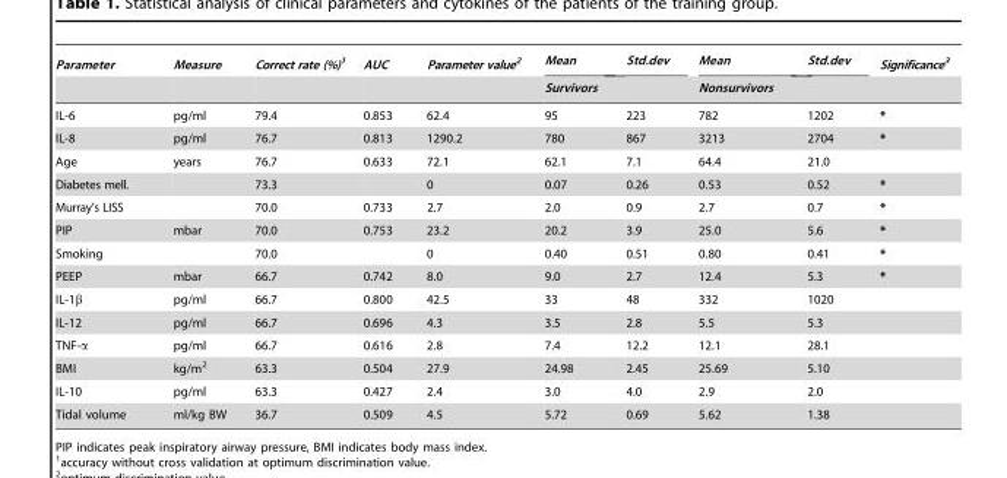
<table><thead><tr><td rowspan="2">Parameter</td><td rowspan="2">Measure</td><td rowspan="2">Correct rate (%)1</td><td rowspan="2">AUC</td><td rowspan="2">Parameter value2</td><td>Mean</td><td>Std.dev</td><td>Mean</td><td>Std.dev</td><td rowspan="2">Significance3</td></tr><tr><td colspan="2">Survivors</td><td colspan="2">Nonsurvivors</td></tr></thead><tbody><tr><td>IL-6</td><td>pg/ml</td><td>79.4</td><td>0.853</td><td>62.4</td><td>95</td><td>223</td><td>782</td><td>1202</td><td>*</td></tr><tr><td>IL-8</td><td>pg/ml</td><td>76.7</td><td>0.813</td><td>1290.2</td><td>780</td><td>867</td><td>3213</td><td>2704</td><td>*</td></tr><tr><td>Age</td><td>years</td><td>76.7</td><td>0.633</td><td>72.1</td><td>62.1</td><td>7.1</td><td>64.4</td><td>21.0</td><td></td></tr><tr><td>Diabetes mell.</td><td></td><td>73.3</td><td></td><td>0</td><td>0.07</td><td>0.26</td><td>0.53</td><td>0.52</td><td>*</td></tr><tr><td>Murray’s LISS</td><td></td><td>70.0</td><td>0.733</td><td>2.7</td><td>2.0</td><td>0.9</td><td>2.7</td><td>0.7</td><td>*</td></tr><tr><td>PIP</td><td>mbar</td><td>70.0</td><td>0.753</td><td>23.2</td><td>20.2</td><td>3.9</td><td>25.0</td><td>5.6</td><td>*</td></tr><tr><td>Smoking</td><td></td><td>70.0</td><td></td><td>0</td><td>0.40</td><td>0.51</td><td>0.80</td><td>0.41</td><td>*</td></tr><tr><td>PEEP</td><td>mbar</td><td>66.7</td><td>0.742</td><td>8.0</td><td>9.0</td><td>2.7</td><td>12.4</td><td>5.3</td><td>*</td></tr><tr><td>IL-1β</td><td>pg/ml</td><td>66.7</td><td>0.800</td><td>42.5</td><td>33</td><td>48</td><td>332</td><td>1020</td><td></td></tr><tr><td>IL-12</td><td>pg/ml</td><td>66.7</td><td>0.696</td><td>4.3</td><td>3.5</td><td>2.8</td><td>5.5</td><td>5.3</td><td></td></tr><tr><td>TNF-α</td><td>pg/ml</td><td>66.7</td><td>0.616</td><td>2.8</td><td>7.4</td><td>12.2</td><td>12.1</td><td>28.1</td><td></td></tr><tr><td>BMI</td><td>kg/m<sup>2</sup></td><td>63.3</td><td>0.504</td><td>27.9</td><td>24.98</td><td>2.45</td><td>25.69</td><td>5.10</td><td></td></tr><tr><td>IL-10</td><td>pg/ml</td><td>63.3</td><td>0.427</td><td>2.4</td><td>3.0</td><td>4.0</td><td>2.9</td><td>2.0</td><td></td></tr><tr><td>Tidal volume</td><td>ml/kg BW</td><td>36.7</td><td>0.509</td><td>4.5</td><td>5.72</td><td>0.69</td><td>5.62</td><td>1.38</td><td></td></tr></tbody></table>